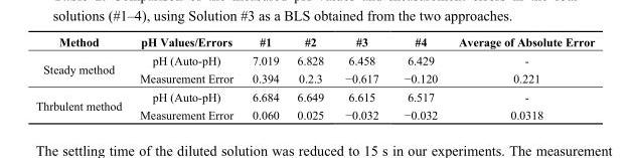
<table><thead><tr><td>Method</td><td>pH Values/Errors</td><td>#1</td><td>#2</td><td>#3</td><td>#4</td><td>Average of Absolute Error</td></tr></thead><tbody><tr><td rowspan="2">Steady method</td><td>pH (Auto-pH)</td><td>7.019</td><td>6.828</td><td>6.458</td><td>6.429</td><td>-</td></tr><tr><td>Measurement Error</td><td>0.394</td><td>0.2.3</td><td>−0.617</td><td>−0.120</td><td>0.221</td></tr><tr><td rowspan="2">Thrbulent method</td><td>pH (Auto-pH)</td><td>6.684</td><td>6.649</td><td>6.615</td><td>6.517</td><td>-</td></tr><tr><td>Measurement Error</td><td>0.060</td><td>0.025</td><td>−0.032</td><td>−0.032</td><td>0.0318</td></tr></tbody></table>